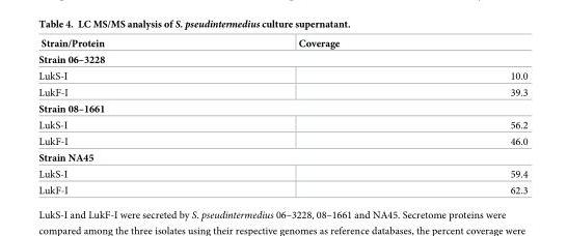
<table><thead><tr><td>Strain/Protein</td><td>Coverage</td></tr></thead><tbody><tr><td colspan="2">Strain 06–3228</td></tr><tr><td>LukS-I</td><td>10.0</td></tr><tr><td>LukF-I</td><td>39.3</td></tr><tr><td colspan="2">Strain 08–1661</td></tr><tr><td>LukS-I</td><td>56.2</td></tr><tr><td>LukF-I</td><td>46.0</td></tr><tr><td colspan="2">Strain NA45</td></tr><tr><td>LukS-I</td><td>59.4</td></tr><tr><td>LukF-I</td><td>62.3</td></tr></tbody></table>